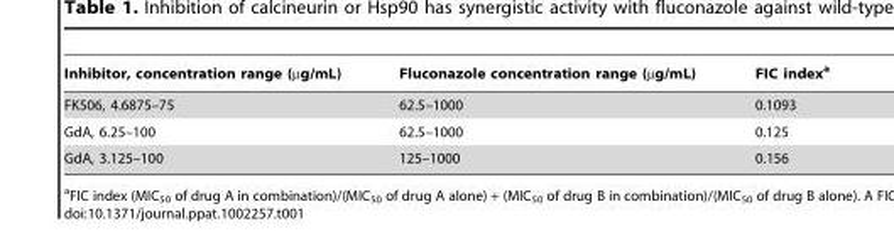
<table><thead><tr><td>Inhibitor, concentration range (µg/mL)</td><td>Fluconazole concentration range (µg/mL)</td><td>FIC index<sup>a</sup></td></tr></thead><tbody><tr><td>FK506, 4.6875–75</td><td>62.5–1000</td><td>0.1093</td></tr><tr><td>GdA, 6.25–100</td><td>62.5–1000</td><td>0.125</td></tr><tr><td>GdA, 3.125–100</td><td>125–1000</td><td>0.156</td></tr></tbody></table>